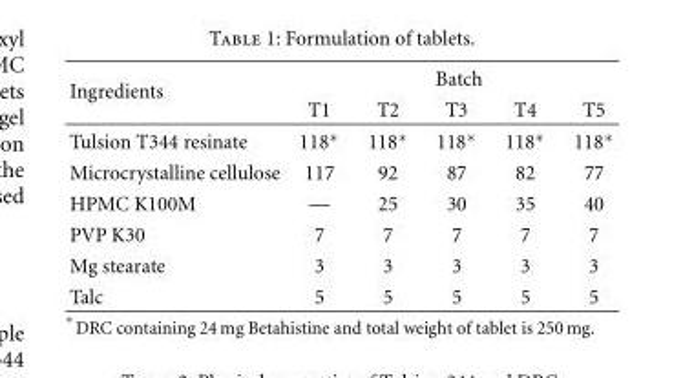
<table><thead><tr><td rowspan="2">Ingredients</td><td colspan="5">Batch</td></tr><tr><td>T1</td><td>T2</td><td>T3</td><td>T4</td><td>T5</td></tr></thead><tbody><tr><td>Tulsion T344 resinate</td><td>118∗</td><td>118∗</td><td>118∗</td><td>118∗</td><td>118∗</td></tr><tr><td>Microcrystalline cellulose</td><td>117</td><td>92</td><td>87</td><td>82</td><td>77</td></tr><tr><td>HPMC K100M</td><td>—</td><td>25</td><td>30</td><td>35</td><td>40</td></tr><tr><td>PVP K30</td><td>7</td><td>7</td><td>7</td><td>7</td><td>7</td></tr><tr><td>Mg stearate</td><td>3</td><td>3</td><td>3</td><td>3</td><td>3</td></tr><tr><td>Talc</td><td>5</td><td>5</td><td>5</td><td>5</td><td>5</td></tr></tbody></table>